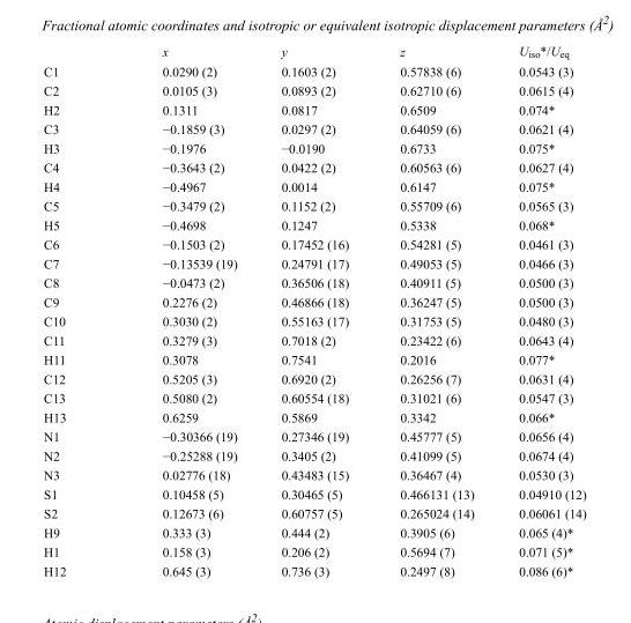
<table><thead><tr><td></td><td>x</td><td>y</td><td>z</td><td>U<sub>iso</sub>*/U<sub>eq</sub></td></tr></thead><tbody><tr><td>C1</td><td>0.0290 (2)</td><td>0.1603 (2)</td><td>0.57838 (6)</td><td>0.0543 (3)</td></tr><tr><td>C2</td><td>0.0105 (3)</td><td>0.0893 (2)</td><td>0.62710 (6)</td><td>0.0615 (4)</td></tr><tr><td>H2</td><td>0.1311</td><td>0.0817</td><td>0.6509</td><td>0.074*</td></tr><tr><td>C3</td><td>−0.1859 (3)</td><td>0.0297 (2)</td><td>0.64059 (6)</td><td>0.0621 (4)</td></tr><tr><td>H3</td><td>−0.1976</td><td>−0.0190</td><td>0.6733</td><td>0.075*</td></tr><tr><td>C4</td><td>−0.3643 (2)</td><td>0.0422 (2)</td><td>0.60563 (6)</td><td>0.0627 (4)</td></tr><tr><td>H4</td><td>−0.4967</td><td>0.0014</td><td>0.6147</td><td>0.075*</td></tr><tr><td>C5</td><td>−0.3479 (2)</td><td>0.1152 (2)</td><td>0.55709 (6)</td><td>0.0565 (3)</td></tr><tr><td>H5</td><td>−0.4698</td><td>0.1247</td><td>0.5338</td><td>0.068*</td></tr><tr><td>C6</td><td>−0.1503 (2)</td><td>0.17452 (16)</td><td>0.54281 (5)</td><td>0.0461 (3)</td></tr><tr><td>C7</td><td>−0.13539 (19)</td><td>0.24791 (17)</td><td>0.49053 (5)</td><td>0.0466 (3)</td></tr><tr><td>C8</td><td>−0.0473 (2)</td><td>0.36506 (18)</td><td>0.40911 (5)</td><td>0.0500 (3)</td></tr><tr><td>C9</td><td>0.2276 (2)</td><td>0.46866 (18)</td><td>0.36247 (5)</td><td>0.0500 (3)</td></tr><tr><td>C10</td><td>0.3030 (2)</td><td>0.55163 (17)</td><td>0.31753 (5)</td><td>0.0480 (3)</td></tr><tr><td>C11</td><td>0.3279 (3)</td><td>0.7018 (2)</td><td>0.23422 (6)</td><td>0.0643 (4)</td></tr><tr><td>H11</td><td>0.3078</td><td>0.7541</td><td>0.2016</td><td>0.077*</td></tr><tr><td>C12</td><td>0.5205 (3)</td><td>0.6920 (2)</td><td>0.26256 (7)</td><td>0.0631 (4)</td></tr><tr><td>C13</td><td>0.5080 (2)</td><td>0.60554 (18)</td><td>0.31021 (6)</td><td>0.0547 (3)</td></tr><tr><td>H13</td><td>0.6259</td><td>0.5869</td><td>0.3342</td><td>0.066*</td></tr><tr><td>N1</td><td>−0.30366 (19)</td><td>0.27346 (19)</td><td>0.45777 (5)</td><td>0.0656 (4)</td></tr><tr><td>N2</td><td>−0.25288 (19)</td><td>0.3405 (2)</td><td>0.41099 (5)</td><td>0.0674 (4)</td></tr><tr><td>N3</td><td>0.02776 (18)</td><td>0.43483 (15)</td><td>0.36467 (4)</td><td>0.0530 (3)</td></tr><tr><td>S1</td><td>0.10458 (5)</td><td>0.30465 (5)</td><td>0.466131 (13)</td><td>0.04910 (12)</td></tr><tr><td>S2</td><td>0.12673 (6)</td><td>0.60757 (5)</td><td>0.265024 (14)</td><td>0.06061 (14)</td></tr><tr><td>H9</td><td>0.333 (3)</td><td>0.444 (2)</td><td>0.3905 (6)</td><td>0.065 (4)*</td></tr><tr><td>H1</td><td>0.158 (3)</td><td>0.206 (2)</td><td>0.5694 (7)</td><td>0.071 (5)*</td></tr><tr><td>H12</td><td>0.645 (3)</td><td>0.736 (3)</td><td>0.2497 (8)</td><td>0.086 (6)*</td></tr></tbody></table>